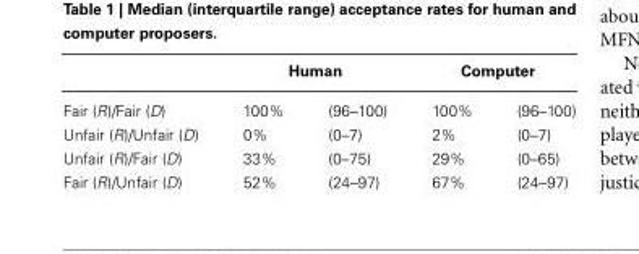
<table><thead><tr><td rowspan="2">Fair (R)/Fair (D)</td><td colspan="2">Human</td><td colspan="2">Computer</td></tr><tr><td>100%</td><td>(96–100)</td><td>100%</td><td>(96–100)</td></tr></thead><tbody><tr><td>Unfair (R)/Unfair (D)</td><td>0%</td><td>(0–7)</td><td>2%</td><td>(0–7)</td></tr><tr><td>Unfair (R)/Fair (D)</td><td>33%</td><td>(0–75)</td><td>29%</td><td>(0–65)</td></tr><tr><td>Fair (R)/Unfair (D)</td><td>52%</td><td>(24–97)</td><td>67%</td><td>(24–97)</td></tr></tbody></table>